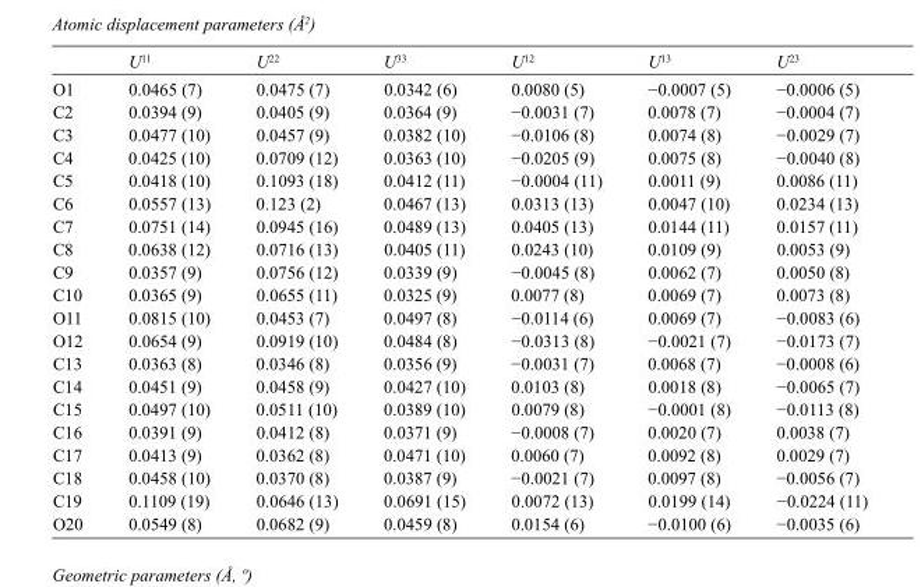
<table><thead><tr><td></td><td>U<sup>11</sup></td><td>U<sup>22</sup></td><td>U<sup>33</sup></td><td>U<sup>12</sup></td><td>U<sup>13</sup></td><td>U<sup>23</sup></td></tr></thead><tbody><tr><td>O1</td><td>0.0465 (7)</td><td>0.0475 (7)</td><td>0.0342 (6)</td><td>0.0080 (5)</td><td>−0.0007 (5)</td><td>−0.0006 (5)</td></tr><tr><td>C2</td><td>0.0394 (9)</td><td>0.0405 (9)</td><td>0.0364 (9)</td><td>−0.0031 (7)</td><td>0.0078 (7)</td><td>−0.0004 (7)</td></tr><tr><td>C3</td><td>0.0477 (10)</td><td>0.0457 (9)</td><td>0.0382 (10)</td><td>−0.0106 (8)</td><td>0.0074 (8)</td><td>−0.0029 (7)</td></tr><tr><td>C4</td><td>0.0425 (10)</td><td>0.0709 (12)</td><td>0.0363 (10)</td><td>−0.0205 (9)</td><td>0.0075 (8)</td><td>−0.0040 (8)</td></tr><tr><td>C5</td><td>0.0418 (10)</td><td>0.1093 (18)</td><td>0.0412 (11)</td><td>−0.0004 (11)</td><td>0.0011 (9)</td><td>0.0086 (11)</td></tr><tr><td>C6</td><td>0.0557 (13)</td><td>0.123 (2)</td><td>0.0467 (13)</td><td>0.0313 (13)</td><td>0.0047 (10)</td><td>0.0234 (13)</td></tr><tr><td>C7</td><td>0.0751 (14)</td><td>0.0945 (16)</td><td>0.0489 (13)</td><td>0.0405 (13)</td><td>0.0144 (11)</td><td>0.0157 (11)</td></tr><tr><td>C8</td><td>0.0638 (12)</td><td>0.0716 (13)</td><td>0.0405 (11)</td><td>0.0243 (10)</td><td>0.0109 (9)</td><td>0.0053 (9)</td></tr><tr><td>C9</td><td>0.0357 (9)</td><td>0.0756 (12)</td><td>0.0339 (9)</td><td>−0.0045 (8)</td><td>0.0062 (7)</td><td>0.0050 (8)</td></tr><tr><td>C10</td><td>0.0365 (9)</td><td>0.0655 (11)</td><td>0.0325 (9)</td><td>0.0077 (8)</td><td>0.0069 (7)</td><td>0.0073 (8)</td></tr><tr><td>O11</td><td>0.0815 (10)</td><td>0.0453 (7)</td><td>0.0497 (8)</td><td>−0.0114 (6)</td><td>0.0069 (7)</td><td>−0.0083 (6)</td></tr><tr><td>O12</td><td>0.0654 (9)</td><td>0.0919 (10)</td><td>0.0484 (8)</td><td>−0.0313 (8)</td><td>−0.0021 (7)</td><td>−0.0173 (7)</td></tr><tr><td>C13</td><td>0.0363 (8)</td><td>0.0346 (8)</td><td>0.0356 (9)</td><td>−0.0031 (7)</td><td>0.0068 (7)</td><td>−0.0008 (6)</td></tr><tr><td>C14</td><td>0.0451 (9)</td><td>0.0458 (9)</td><td>0.0427 (10)</td><td>0.0103 (8)</td><td>0.0018 (8)</td><td>−0.0065 (7)</td></tr><tr><td>C15</td><td>0.0497 (10)</td><td>0.0511 (10)</td><td>0.0389 (10)</td><td>0.0079 (8)</td><td>−0.0001 (8)</td><td>−0.0113 (8)</td></tr><tr><td>C16</td><td>0.0391 (9)</td><td>0.0412 (8)</td><td>0.0371 (9)</td><td>−0.0008 (7)</td><td>0.0020 (7)</td><td>0.0038 (7)</td></tr><tr><td>C17</td><td>0.0413 (9)</td><td>0.0362 (8)</td><td>0.0471 (10)</td><td>0.0060 (7)</td><td>0.0092 (8)</td><td>0.0029 (7)</td></tr><tr><td>C18</td><td>0.0458 (10)</td><td>0.0370 (8)</td><td>0.0387 (9)</td><td>−0.0021 (7)</td><td>0.0097 (8)</td><td>−0.0056 (7)</td></tr><tr><td>C19</td><td>0.1109 (19)</td><td>0.0646 (13)</td><td>0.0691 (15)</td><td>0.0072 (13)</td><td>0.0199 (14)</td><td>−0.0224 (11)</td></tr><tr><td>O20</td><td>0.0549 (8)</td><td>0.0682 (9)</td><td>0.0459 (8)</td><td>0.0154 (6)</td><td>−0.0100 (6)</td><td>−0.0035 (6)</td></tr></tbody></table>